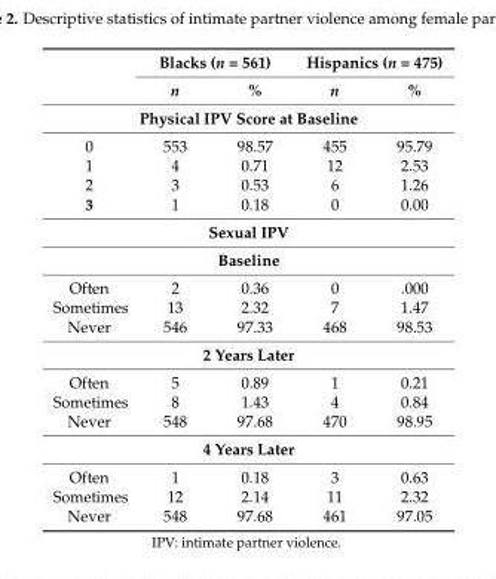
<table><thead><tr><td rowspan="2"></td><td colspan="2">Blacks (n = 561)</td><td colspan="2">Hispanics (n = 475)</td></tr><tr><td>n</td><td>%</td><td>n</td><td>%</td></tr></thead><tbody><tr><td colspan="5">Physical IPV Score at Baseline</td></tr><tr><td>0</td><td>553</td><td>98.57</td><td>455</td><td>95.79</td></tr><tr><td>1</td><td>4</td><td>0.71</td><td>12</td><td>2.53</td></tr><tr><td>2</td><td>3</td><td>0.53</td><td>6</td><td>1.26</td></tr><tr><td>3</td><td>1</td><td>0.18</td><td>0</td><td>0.00</td></tr><tr><td colspan="5">Sexual IPV</td></tr><tr><td colspan="5">Baseline</td></tr><tr><td>Often</td><td>2</td><td>0.36</td><td>0</td><td>.000</td></tr><tr><td>Sometimes</td><td>13</td><td>2.32</td><td>7</td><td>1.47</td></tr><tr><td>Never</td><td>546</td><td>97.33</td><td>468</td><td>98.53</td></tr><tr><td colspan="5">2 Years Later</td></tr><tr><td>Often</td><td>5</td><td>0.89</td><td>1</td><td>0.21</td></tr><tr><td>Sometimes</td><td>8</td><td>1.43</td><td>4</td><td>0.84</td></tr><tr><td>Never</td><td>548</td><td>97.68</td><td>470</td><td>98.95</td></tr><tr><td colspan="5">4 Years Later</td></tr><tr><td>Often</td><td>1</td><td>0.18</td><td>3</td><td>0.63</td></tr><tr><td>Sometimes</td><td>12</td><td>2.14</td><td>11</td><td>2.32</td></tr><tr><td>Never</td><td>548</td><td>97.68</td><td>461</td><td>97.05</td></tr></tbody></table>